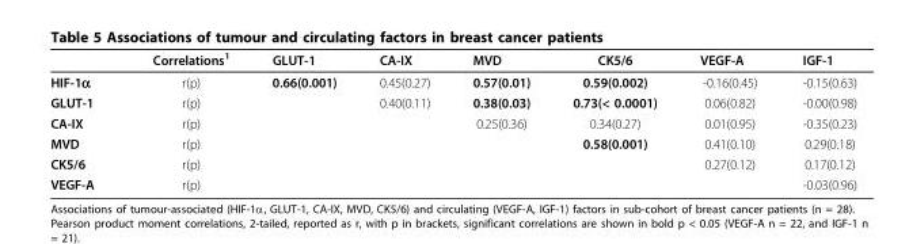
<table><thead><tr><td></td><td>Correlations<sup>1</sup></td><td>GLUT-1</td><td>CA-IX</td><td>MVD</td><td>CK5/6</td><td>VEGF-A</td><td>IGF-1</td></tr></thead><tbody><tr><td>HIF-1α</td><td>r(p)</td><td>0.66(0.001)</td><td>0.45(0.27)</td><td>0.57(0.01)</td><td>0.59(0.002)</td><td>-0.16(0.45)</td><td>-0.15(0.63)</td></tr><tr><td>GLUT-1</td><td>r(p)</td><td></td><td>0.40(0.11)</td><td>0.38(0.03)</td><td>0.73(&lt; 0.0001)</td><td>0.06(0.82)</td><td>-0.00(0.98)</td></tr><tr><td>CA-IX</td><td>r(p)</td><td></td><td></td><td>0.25(0.36)</td><td>0.34(0.27)</td><td>0.01(0.95)</td><td>-0.35(0.23)</td></tr><tr><td>MVD</td><td>r(p)</td><td></td><td></td><td></td><td>0.58(0.001)</td><td>0.41(0.10)</td><td>0.29(0.18)</td></tr><tr><td>CK5/6</td><td>r(p)</td><td></td><td></td><td></td><td></td><td>0.27(0.12)</td><td>0.17(0.12)</td></tr><tr><td>VEGF-A</td><td>r(p)</td><td></td><td></td><td></td><td></td><td></td><td>-0.03(0.96)</td></tr></tbody></table>